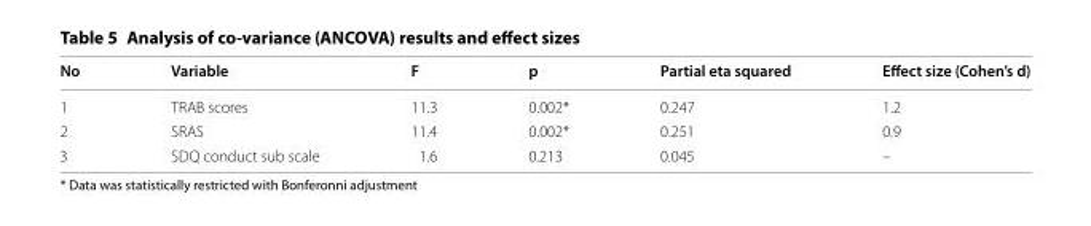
<table><thead><tr><td>No</td><td>Variable</td><td>F</td><td>p</td><td>Partial eta squared</td><td>Effect size (Cohen’s d)</td></tr></thead><tbody><tr><td>1</td><td>TRAB scores</td><td>11.3</td><td>0.002*</td><td>0.247</td><td>1.2</td></tr><tr><td>2</td><td>SRAS</td><td>11.4</td><td>0.002*</td><td>0.251</td><td>0.9</td></tr><tr><td>3</td><td>SDQ conduct sub scale</td><td>1.6</td><td>0.213</td><td>0.045</td><td>–</td></tr></tbody></table>